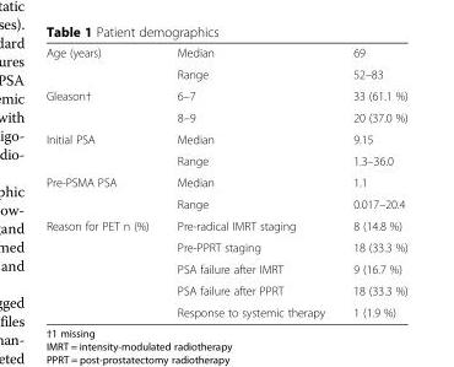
<table><tbody><tr><td rowspan="2">Age (years)</td><td>Median</td><td>69</td></tr><tr><td>Range</td><td>52–83</td></tr><tr><td rowspan="2">Gleason†</td><td>6–7</td><td>33 (61.1 %)</td></tr><tr><td>8–9</td><td>20 (37.0 %)</td></tr><tr><td rowspan="2">Initial PSA</td><td>Median</td><td>9.15</td></tr><tr><td>Range</td><td>1.3–36.0</td></tr><tr><td rowspan="2">Pre-PSMA PSA</td><td>Median</td><td>1.1</td></tr><tr><td>Range</td><td>0.017–20.4</td></tr><tr><td rowspan="5">Reason for PET n (%)</td><td>Pre-radical IMRT staging</td><td>8 (14.8 %)</td></tr><tr><td>Pre-PPRT staging</td><td>18 (33.3 %)</td></tr><tr><td>PSA failure after IMRT</td><td>9 (16.7 %)</td></tr><tr><td>PSA failure after PPRT</td><td>18 (33.3 %)</td></tr><tr><td>Response to systemic therapy</td><td>1 (1.9 %)</td></tr></tbody></table>